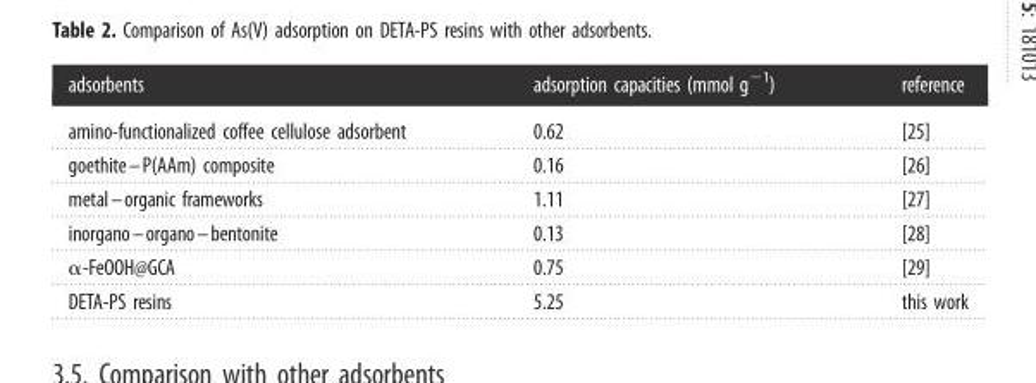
<table><thead><tr><td>adsorbents</td><td>adsorption capacities (mmol g<sup>−1</sup>)</td><td>reference</td></tr></thead><tbody><tr><td>amino-functionalized coffee cellulose adsorbent</td><td>0.62</td><td>[25]</td></tr><tr><td>goethite–P(AAm) composite</td><td>0.16</td><td>[26]</td></tr><tr><td>metal–organic frameworks</td><td>1.11</td><td>[27]</td></tr><tr><td>inorgano–organo–bentonite</td><td>0.13</td><td>[28]</td></tr><tr><td>α-FeOOH@GCA</td><td>0.75</td><td>[29]</td></tr><tr><td>DETA-PS resins</td><td>5.25</td><td>this work</td></tr></tbody></table>